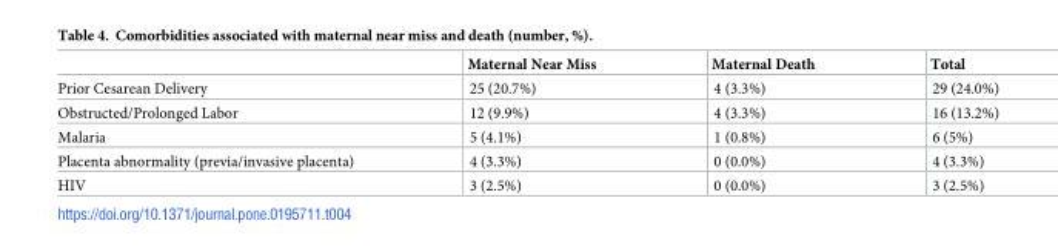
<table><thead><tr><td></td><td>Maternal Near Miss</td><td>Maternal Death</td><td>Total</td></tr></thead><tbody><tr><td>Prior Cesarean Delivery</td><td>25 (20.7%)</td><td>4 (3.3%)</td><td>29 (24.0%)</td></tr><tr><td>Obstructed/Prolonged Labor</td><td>12 (9.9%)</td><td>4 (3.3%)</td><td>16 (13.2%)</td></tr><tr><td>Malaria</td><td>5 (4.1%)</td><td>1 (0.8%)</td><td>6 (5%)</td></tr><tr><td>Placenta abnormality (previa/invasive placenta)</td><td>4 (3.3%)</td><td>0 (0.0%)</td><td>4 (3.3%)</td></tr><tr><td>HIV</td><td>3 (2.5%)</td><td>0 (0.0%)</td><td>3 (2.5%)</td></tr></tbody></table>